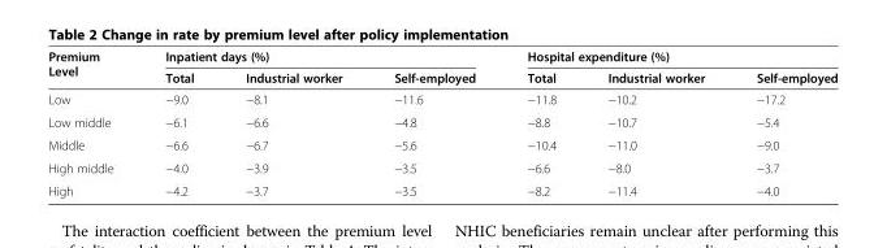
<table><thead><tr><td rowspan="2">Premium Level</td><td colspan="3">Inpatient days (%)</td><td colspan="3">Hospital expenditure (%)</td></tr><tr><td>Total</td><td>Industrial worker</td><td>Self-employed</td><td>Total</td><td>Industrial worker</td><td>Self-employed</td></tr></thead><tbody><tr><td>Low</td><td>−9.0</td><td>−8.1</td><td>−11.6</td><td>−11.8</td><td>−10.2</td><td>−17.2</td></tr><tr><td>Low middle</td><td>−6.1</td><td>−6.6</td><td>−4.8</td><td>−8.8</td><td>−10.7</td><td>−5.4</td></tr><tr><td>Middle</td><td>−6.6</td><td>−6.7</td><td>−5.6</td><td>−10.4</td><td>−11.0</td><td>−9.0</td></tr><tr><td>High middle</td><td>−4.0</td><td>−3.9</td><td>−3.5</td><td>−6.6</td><td>−8.0</td><td>−3.7</td></tr><tr><td>High</td><td>−4.2</td><td>−3.7</td><td>−3.5</td><td>−8.2</td><td>−11.4</td><td>−4.0</td></tr></tbody></table>